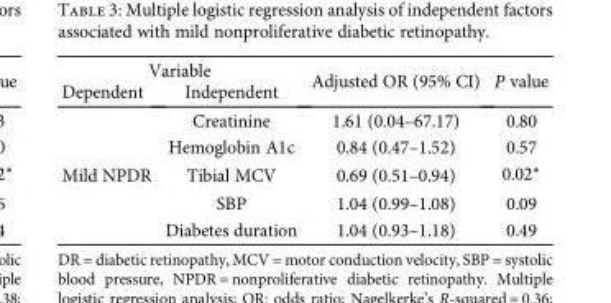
<table><thead><tr><td colspan="2">Variable</td><td rowspan="2">Adjusted OR (95% CI)</td><td rowspan="2">P value</td></tr><tr><td>Dependent</td><td>Independent</td></tr></thead><tbody><tr><td rowspan="5">Mild NPDR</td><td>Creatinine</td><td>1.61 (0.04–67.17)</td><td>0.80</td></tr><tr><td>Hemoglobin A1c</td><td>0.84 (0.47–1.52)</td><td>0.57</td></tr><tr><td>Tibial MCV</td><td>0.69 (0.51–0.94)</td><td>0.02∗</td></tr><tr><td>SBP</td><td>1.04 (0.99–1.08)</td><td>0.09</td></tr><tr><td>Diabetes duration</td><td>1.04 (0.93–1.18)</td><td>0.49</td></tr></tbody></table>